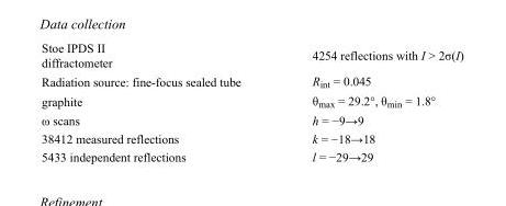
<table><tbody><tr><td>Stoe IPDS II diffractometer</td><td>4254 reflections with I &gt; 2σ(I)</td></tr><tr><td>Radiation source: fine-focus sealed tube</td><td>R<sub>int</sub> = 0.045</td></tr><tr><td>graphite</td><td>θ<sub>max</sub> = 29.2°, θ<sub>min</sub> = 1.8°</td></tr><tr><td>ω scans</td><td>h = −9→9</td></tr><tr><td>38412 measured reflections</td><td>k = −18→18</td></tr><tr><td>5433 independent reflections</td><td>l = −29→29</td></tr></tbody></table>